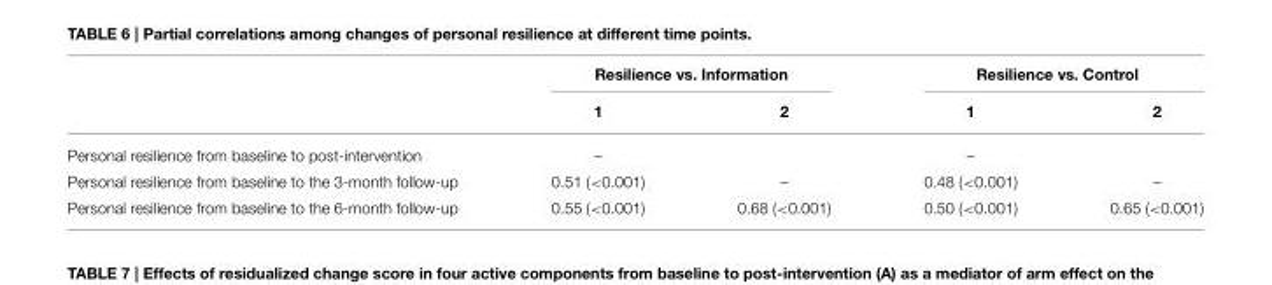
<table><thead><tr><td rowspan="2"></td><td colspan="2">Resilience vs. Information</td><td colspan="2">Resilience vs. Control</td></tr><tr><td>1</td><td>2</td><td>1</td><td>2</td></tr></thead><tbody><tr><td>Personal resilience from baseline to post-intervention</td><td>–</td><td></td><td>–</td><td></td></tr><tr><td>Personal resilience from baseline to the 3-month follow-up</td><td>0.51 (&lt;0.001)</td><td>–</td><td>0.48 (&lt;0.001)</td><td>–</td></tr><tr><td>Personal resilience from baseline to the 6-month follow-up</td><td>0.55 (&lt;0.001)</td><td>0.68 (&lt;0.001)</td><td>0.50 (&lt;0.001)</td><td>0.65 (&lt;0.001)</td></tr></tbody></table>